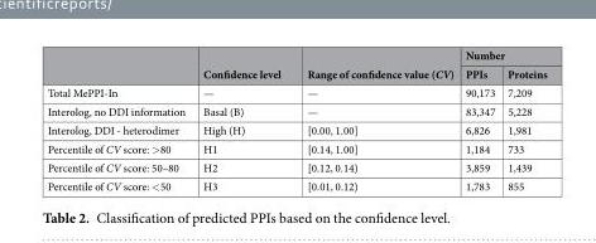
<table><thead><tr><td rowspan="2"></td><td rowspan="2">Confidence level</td><td rowspan="2">Range of confidence value (CV)</td><td colspan="2">Number</td></tr><tr><td>PPIs</td><td>Proteins</td></tr></thead><tbody><tr><td>Total MePPI-In</td><td>—</td><td>—</td><td>90,173</td><td>7,209</td></tr><tr><td>Interolog, no DDI information</td><td>Basal (B)</td><td>—</td><td>83,347</td><td>5,228</td></tr><tr><td>Interolog, DDI - heterodimer</td><td>High (H)</td><td>[0.00, 1.00]</td><td>6,826</td><td>1,981</td></tr><tr><td>Percentile of CV score: &gt;80</td><td>H1</td><td>[0.14, 1.00]</td><td>1,184</td><td>733</td></tr><tr><td>Percentile of CV score: 50–80</td><td>H2</td><td>[0.12, 0.14)</td><td>3,859</td><td>1,439</td></tr><tr><td>Percentile of CV score: &lt;50</td><td>H3</td><td>[0.01, 0.12)</td><td>1,783</td><td>855</td></tr></tbody></table>